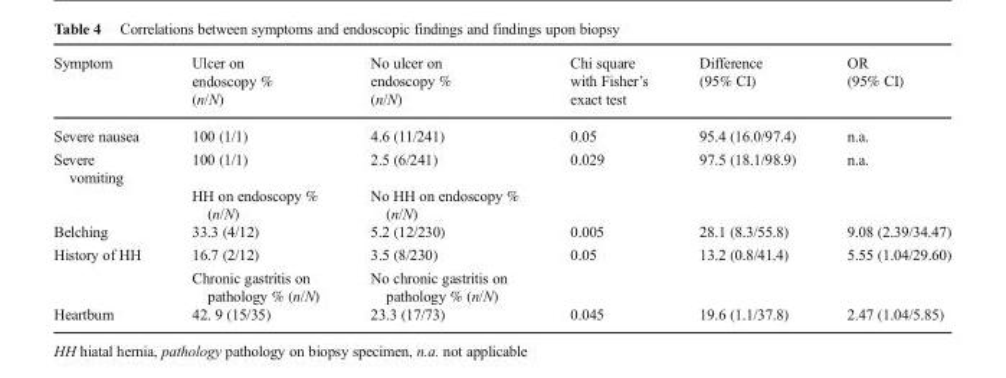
<table><thead><tr><td>Symptom</td><td>Ulcer on endoscopy % (n/N)</td><td>No ulcer on endoscopy % (n/N)</td><td>Chi square with Fisher’s exact test</td><td>Difference (95% CI)</td><td>OR (95% CI)</td></tr></thead><tbody><tr><td>Severe nausea</td><td>100 (1/1)</td><td>4.6 (11/241)</td><td>0.05</td><td>95.4 (16.0/97.4)</td><td>n.a.</td></tr><tr><td rowspan="2">Severe vomiting</td><td>100 (1/1)</td><td>2.5 (6/241)</td><td>0.029</td><td>97.5 (18.1/98.9)</td><td>n.a.</td></tr><tr><td>HH on endoscopy % (n/N)</td><td>No HH on endoscopy % (n/N)</td><td></td><td></td><td></td></tr><tr><td>Belching</td><td>33.3 (4/12)</td><td>5.2 (12/230)</td><td>0.005</td><td>28.1 (8.3/55.8)</td><td>9.08 (2.39/34.47)</td></tr><tr><td rowspan="2">History of HH</td><td>16.7 (2/12)</td><td>3.5 (8/230)</td><td>0.05</td><td>13.2 (0.8/41.4)</td><td>5.55 (1.04/29.60)</td></tr><tr><td>Chronic gastritis on pathology % (n/N)</td><td>No chronic gastritis on pathology % (n/N)</td><td></td><td></td><td></td></tr><tr><td>Heartburn</td><td>42. 9 (15/35)</td><td>23.3 (17/73)</td><td>0.045</td><td>19.6 (1.1/37.8)</td><td>2.47 (1.04/5.85)</td></tr></tbody></table>